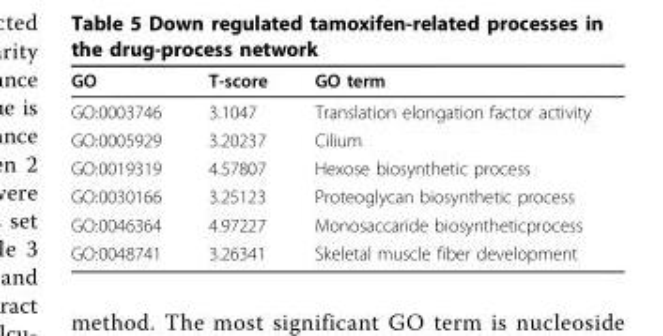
<table><thead><tr><td>GO</td><td>T-score</td><td>GO term</td></tr></thead><tbody><tr><td>GO:0003746</td><td>3.1047</td><td>Translation elongation factor activity</td></tr><tr><td>GO:0005929</td><td>3.20237</td><td>Cilium</td></tr><tr><td>GO:0019319</td><td>4.57807</td><td>Hexose biosynthetic process</td></tr><tr><td>GO:0030166</td><td>3.25123</td><td>Proteoglycan biosynthetic process</td></tr><tr><td>GO:0046364</td><td>4.97227</td><td>Monosaccaride biosyntheticprocess</td></tr><tr><td>GO:0048741</td><td>3.26341</td><td>Skeletal muscle fiber development</td></tr></tbody></table>